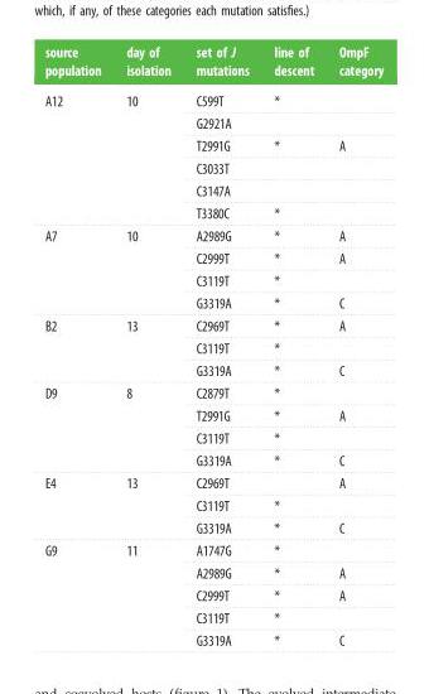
<table><thead><tr><td>source population</td><td>day of isolation</td><td>set of J mutations</td><td>line of descent</td><td>OmpF category</td></tr></thead><tbody><tr><td rowspan="6">A12</td><td rowspan="6">10</td><td>C599T</td><td>*</td><td></td></tr><tr><td>G2921A</td><td></td><td></td></tr><tr><td>T2991G</td><td>*</td><td>A</td></tr><tr><td>C3033T</td><td></td><td></td></tr><tr><td>C3147A</td><td></td><td></td></tr><tr><td>T3380C</td><td>*</td><td></td></tr><tr><td rowspan="4">A7</td><td rowspan="4">10</td><td>A2989G</td><td>*</td><td>A</td></tr><tr><td>C2999T</td><td>*</td><td>A</td></tr><tr><td>C3119T</td><td>*</td><td></td></tr><tr><td>G3319A</td><td>*</td><td>C</td></tr><tr><td rowspan="3">B2</td><td rowspan="3">13</td><td>C2969T</td><td>*</td><td>A</td></tr><tr><td>C3119T</td><td>*</td><td></td></tr><tr><td>G3319A</td><td>*</td><td>C</td></tr><tr><td rowspan="4">D9</td><td rowspan="4">8</td><td>C2879T</td><td>*</td><td></td></tr><tr><td>T2991G</td><td>*</td><td>A</td></tr><tr><td>C3119T</td><td>*</td><td></td></tr><tr><td>G3319A</td><td>*</td><td>C</td></tr><tr><td rowspan="3">E4</td><td rowspan="3">13</td><td>C2969T</td><td></td><td>A</td></tr><tr><td>C3119T</td><td>*</td><td></td></tr><tr><td>G3319A</td><td>*</td><td>C</td></tr><tr><td rowspan="5">G9</td><td rowspan="5">11</td><td>A1747G</td><td>*</td><td></td></tr><tr><td>A2989G</td><td>*</td><td>A</td></tr><tr><td>C2999T</td><td>*</td><td>A</td></tr><tr><td>C3119T</td><td>*</td><td></td></tr><tr><td>G3319A</td><td>*</td><td>C</td></tr></tbody></table>